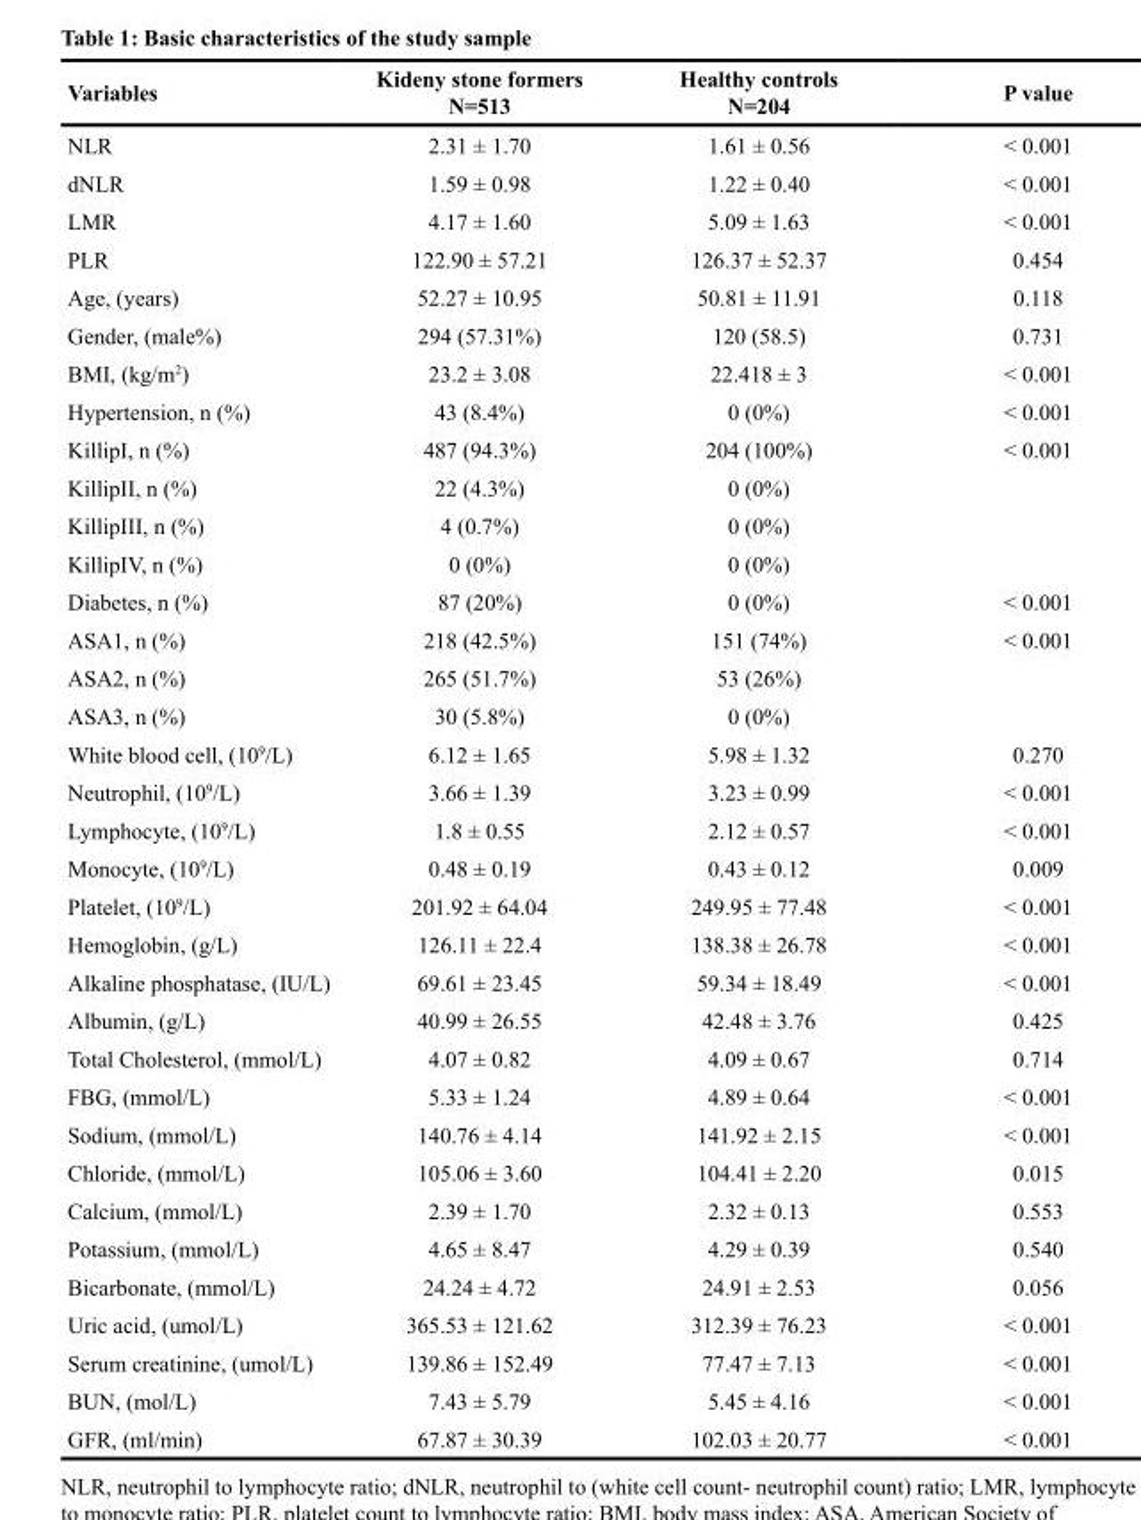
<table><thead><tr><td>Variables</td><td>Kideny stone formers N=513</td><td>Healthy controls N=204</td><td>P value</td></tr></thead><tbody><tr><td>NLR</td><td>2.31 ± 1.70</td><td>1.61 ± 0.56</td><td>&lt; 0.001</td></tr><tr><td>dNLR</td><td>1.59 ± 0.98</td><td>1.22 ± 0.40</td><td>&lt; 0.001</td></tr><tr><td>LMR</td><td>4.17 ± 1.60</td><td>5.09 ± 1.63</td><td>&lt; 0.001</td></tr><tr><td>PLR</td><td>122.90 ± 57.21</td><td>126.37 ± 52.37</td><td>0.454</td></tr><tr><td>Age, (years)</td><td>52.27 ± 10.95</td><td>50.81 ± 11.91</td><td>0.118</td></tr><tr><td>Gender, (male%)</td><td>294 (57.31%)</td><td>120 (58.5)</td><td>0.731</td></tr><tr><td>BMI, (kg/m<sup>2</sup>)</td><td>23.2 ± 3.08</td><td>22.418 ± 3</td><td>&lt; 0.001</td></tr><tr><td>Hypertension, n (%)</td><td>43 (8.4%)</td><td>0 (0%)</td><td>&lt; 0.001</td></tr><tr><td>KillipI, n (%)</td><td>487 (94.3%)</td><td>204 (100%)</td><td>&lt; 0.001</td></tr><tr><td>KillipII, n (%)</td><td>22 (4.3%)</td><td>0 (0%)</td><td></td></tr><tr><td>KillipIII, n (%)</td><td>4 (0.7%)</td><td>0 (0%)</td><td></td></tr><tr><td>KillipIV, n (%)</td><td>0 (0%)</td><td>0 (0%)</td><td></td></tr><tr><td>Diabetes, n (%)</td><td>87 (20%)</td><td>0 (0%)</td><td>&lt; 0.001</td></tr><tr><td>ASA1, n (%)</td><td>218 (42.5%)</td><td>151 (74%)</td><td>&lt; 0.001</td></tr><tr><td>ASA2, n (%)</td><td>265 (51.7%)</td><td>53 (26%)</td><td></td></tr><tr><td>ASA3, n (%)</td><td>30 (5.8%)</td><td>0 (0%)</td><td></td></tr><tr><td>White blood cell, (10<sup>9</sup>/L)</td><td>6.12 ± 1.65</td><td>5.98 ± 1.32</td><td>0.270</td></tr><tr><td>Neutrophil, (10<sup>9</sup>/L)</td><td>3.66 ± 1.39</td><td>3.23 ± 0.99</td><td>&lt; 0.001</td></tr><tr><td>Lymphocyte, (10<sup>9</sup>/L)</td><td>1.8 ± 0.55</td><td>2.12 ± 0.57</td><td>&lt; 0.001</td></tr><tr><td>Monocyte, (10<sup>9</sup>/L)</td><td>0.48 ± 0.19</td><td>0.43 ± 0.12</td><td>0.009</td></tr><tr><td>Platelet, (10<sup>9</sup>/L)</td><td>201.92 ± 64.04</td><td>249.95 ± 77.48</td><td>&lt; 0.001</td></tr><tr><td>Hemoglobin, (g/L)</td><td>126.11 ± 22.4</td><td>138.38 ± 26.78</td><td>&lt; 0.001</td></tr><tr><td>Alkaline phosphatase, (IU/L)</td><td>69.61 ± 23.45</td><td>59.34 ± 18.49</td><td>&lt; 0.001</td></tr><tr><td>Albumin, (g/L)</td><td>40.99 ± 26.55</td><td>42.48 ± 3.76</td><td>0.425</td></tr><tr><td>Total Cholesterol, (mmol/L)</td><td>4.07 ± 0.82</td><td>4.09 ± 0.67</td><td>0.714</td></tr><tr><td>FBG, (mmol/L)</td><td>5.33 ± 1.24</td><td>4.89 ± 0.64</td><td>&lt; 0.001</td></tr><tr><td>Sodium, (mmol/L)</td><td>140.76 ± 4.14</td><td>141.92 ± 2.15</td><td>&lt; 0.001</td></tr><tr><td>Chloride, (mmol/L)</td><td>105.06 ± 3.60</td><td>104.41 ± 2.20</td><td>0.015</td></tr><tr><td>Calcium, (mmol/L)</td><td>2.39 ± 1.70</td><td>2.32 ± 0.13</td><td>0.553</td></tr><tr><td>Potassium, (mmol/L)</td><td>4.65 ± 8.47</td><td>4.29 ± 0.39</td><td>0.540</td></tr><tr><td>Bicarbonate, (mmol/L)</td><td>24.24 ± 4.72</td><td>24.91 ± 2.53</td><td>0.056</td></tr><tr><td>Uric acid, (umol/L)</td><td>365.53 ± 121.62</td><td>312.39 ± 76.23</td><td>&lt; 0.001</td></tr><tr><td>Serum creatinine, (umol/L)</td><td>139.86 ± 152.49</td><td>77.47 ± 7.13</td><td>&lt; 0.001</td></tr><tr><td>BUN, (mol/L)</td><td>7.43 ± 5.79</td><td>5.45 ± 4.16</td><td>&lt; 0.001</td></tr><tr><td>GFR, (ml/min)</td><td>67.87 ± 30.39</td><td>102.03 ± 20.77</td><td>&lt; 0.001</td></tr></tbody></table>